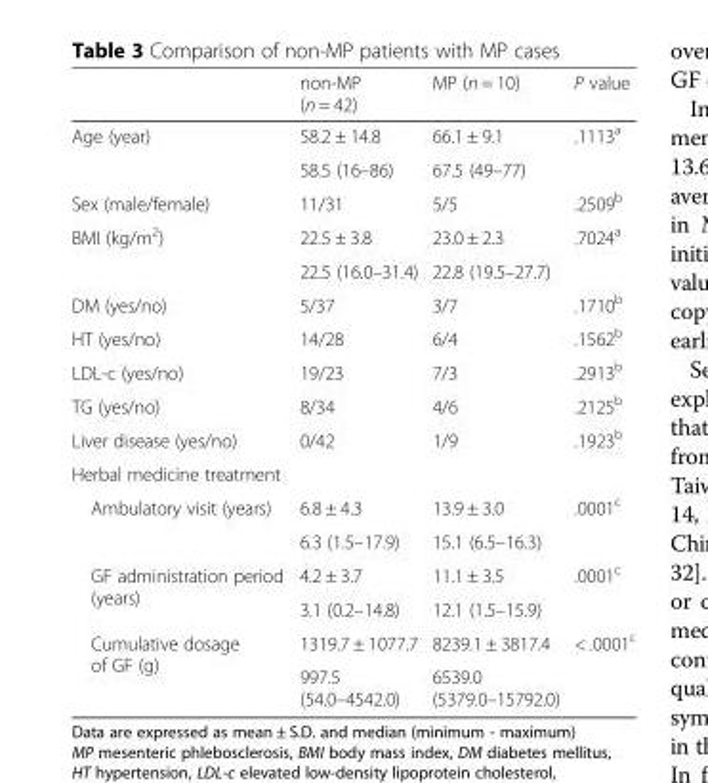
<table><thead><tr><td></td><td>non-MP (n = 42)</td><td>MP (n = 10)</td><td>P value</td></tr></thead><tbody><tr><td rowspan="2">Age (year)</td><td>58.2 ± 14.8</td><td>66.1 ± 9.1</td><td rowspan="2">.1113<sup>a</sup></td></tr><tr><td>58.5 (16–86)</td><td>67.5 (49–77)</td></tr><tr><td>Sex (male/female)</td><td>11/31</td><td>5/5</td><td>.2509<sup>b</sup></td></tr><tr><td rowspan="2">BMI (kg/m<sup>2</sup>)</td><td>22.5 ± 3.8</td><td>23.0 ± 2.3</td><td rowspan="2">.7024<sup>a</sup></td></tr><tr><td>22.5 (16.0–31.4)</td><td>22.8 (19.5–27.7)</td></tr><tr><td>DM (yes/no)</td><td>5/37</td><td>3/7</td><td>.1710<sup>b</sup></td></tr><tr><td>HT (yes/no)</td><td>14/28</td><td>6/4</td><td>.1562<sup>b</sup></td></tr><tr><td>LDL-c (yes/no)</td><td>19/23</td><td>7/3</td><td>.2913<sup>b</sup></td></tr><tr><td>TG (yes/no)</td><td>8/34</td><td>4/6</td><td>.2125<sup>b</sup></td></tr><tr><td>Liver disease (yes/no)</td><td>0/42</td><td>1/9</td><td>.1923<sup>b</sup></td></tr><tr><td colspan="4">Herbal medicine treatment</td></tr><tr><td rowspan="2">Ambulatory visit (years)</td><td>6.8 ± 4.3</td><td>13.9 ± 3.0</td><td rowspan="2">.0001<sup>c</sup></td></tr><tr><td>6.3 (1.5–17.9)</td><td>15.1 (6.5–16.3)</td></tr><tr><td rowspan="2">GF administration period (years)</td><td>4.2 ± 3.7</td><td>11.1 ± 3.5</td><td rowspan="2">.0001<sup>c</sup></td></tr><tr><td>3.1 (0.2–14.8)</td><td>12.1 (1.5–15.9)</td></tr><tr><td rowspan="2">Cumulative dosage of GF (g)</td><td>1319.7 ± 1077.7</td><td>8239.1 ± 3817.4</td><td rowspan="2">&lt; .0001<sup>c</sup></td></tr><tr><td>997.5 (54.0–4542.0)</td><td>6539.0 (5379.0–15792.0)</td></tr></tbody></table>